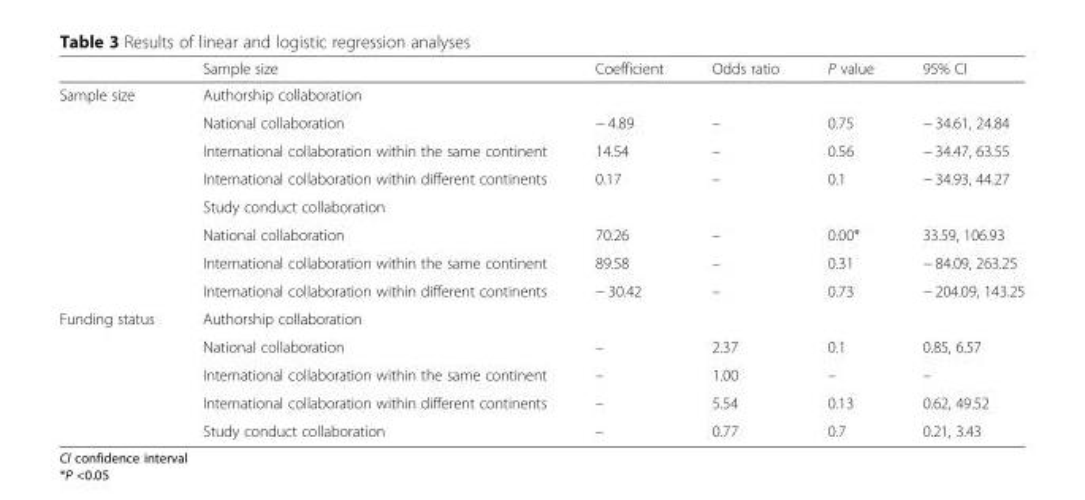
<table><thead><tr><td></td><td>Sample size</td><td>Coefficient</td><td>Odds ratio</td><td>P value</td><td>95% CI</td></tr></thead><tbody><tr><td rowspan="8">Sample size</td><td colspan="5">Authorship collaboration</td></tr><tr><td>National collaboration</td><td>− 4.89</td><td>–</td><td>0.75</td><td>− 34.61, 24.84</td></tr><tr><td>International collaboration within the same continent</td><td>14.54</td><td>–</td><td>0.56</td><td>− 34.47, 63.55</td></tr><tr><td>International collaboration within different continents</td><td>0.17</td><td>–</td><td>0.1</td><td>− 34.93, 44.27</td></tr><tr><td colspan="5">Study conduct collaboration</td></tr><tr><td>National collaboration</td><td>70.26</td><td>–</td><td>0.00*</td><td>33.59, 106.93</td></tr><tr><td>International collaboration within the same continent</td><td>89.58</td><td>–</td><td>0.31</td><td>− 84.09, 263.25</td></tr><tr><td>International collaboration within different continents</td><td>− 30.42</td><td>–</td><td>0.73</td><td>− 204.09, 143.25</td></tr><tr><td rowspan="5">Funding status</td><td colspan="5">Authorship collaboration</td></tr><tr><td>National collaboration</td><td>–</td><td>2.37</td><td>0.1</td><td>0.85, 6.57</td></tr><tr><td>International collaboration within the same continent</td><td>–</td><td>1.00</td><td>–</td><td>–</td></tr><tr><td>International collaboration within different continents</td><td>–</td><td>5.54</td><td>0.13</td><td>0.62, 49.52</td></tr><tr><td>Study conduct collaboration</td><td>–</td><td>0.77</td><td>0.7</td><td>0.21, 3.43</td></tr></tbody></table>